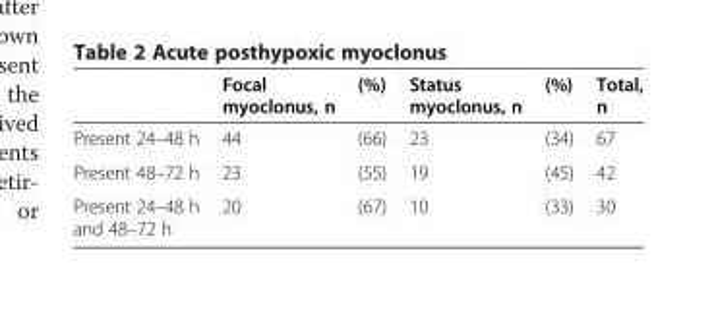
<table><thead><tr><td></td><td>Focal myoclonus, n</td><td>(%)</td><td>Status myoclonus, n</td><td>(%)</td><td>Total, n</td></tr></thead><tbody><tr><td>Present 24–48 h</td><td>44</td><td>(66)</td><td>23</td><td>(34)</td><td>67</td></tr><tr><td>Present 48–72 h</td><td>23</td><td>(55)</td><td>19</td><td>(45)</td><td>42</td></tr><tr><td>Present 24–48 h and 48–72 h</td><td>20</td><td>(67)</td><td>10</td><td>(33)</td><td>30</td></tr></tbody></table>